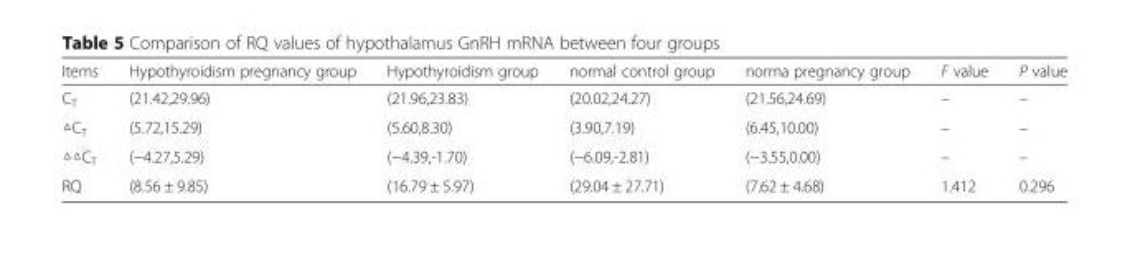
<table><thead><tr><td>Items</td><td>Hypothyroidism pregnancy group</td><td>Hypothyroidism group</td><td>normal control group</td><td>norma pregnancy group</td><td>F value</td><td>P value</td></tr></thead><tbody><tr><td>C<sub>T</sub></td><td>(21.42,29.96)</td><td>(21.96,23.83)</td><td>(20.02,24.27)</td><td>(21.56,24.69)</td><td>–</td><td>–</td></tr><tr><td>△C<sub>T</sub></td><td>(5.72,15.29)</td><td>(5.60,8.30)</td><td>(3.90,7.19)</td><td>(6.45,10.00)</td><td>–</td><td>–</td></tr><tr><td>△△C<sub>T</sub></td><td>(−4.27,5.29)</td><td>(−4.39,-1.70)</td><td>(−6.09,-2.81)</td><td>(−3.55,0.00)</td><td>–</td><td>–</td></tr><tr><td>RQ</td><td>(8.56 ± 9.85)</td><td>(16.79 ± 5.97)</td><td>(29.04 ± 27.71)</td><td>(7.62 ± 4.68)</td><td>1.412</td><td>0.296</td></tr></tbody></table>